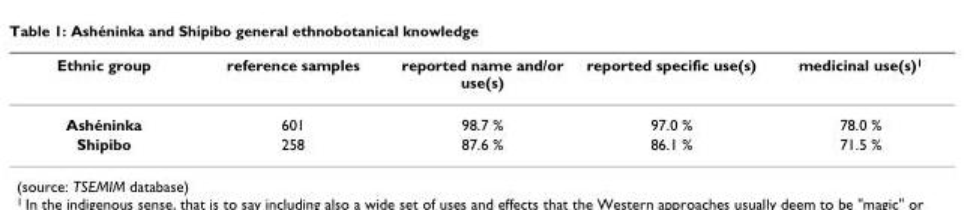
<table><thead><tr><td>Ethnic group</td><td>reference samples</td><td>reported name and/or use(s)</td><td>reported specific use(s)</td><td>medicinal use(s)<sup>1</sup></td></tr></thead><tbody><tr><td>Ashéninka</td><td>601</td><td>98.7 %</td><td>97.0 %</td><td>78.0 %</td></tr><tr><td>Shipibo</td><td>258</td><td>87.6 %</td><td>86.1 %</td><td>71.5 %</td></tr></tbody></table>